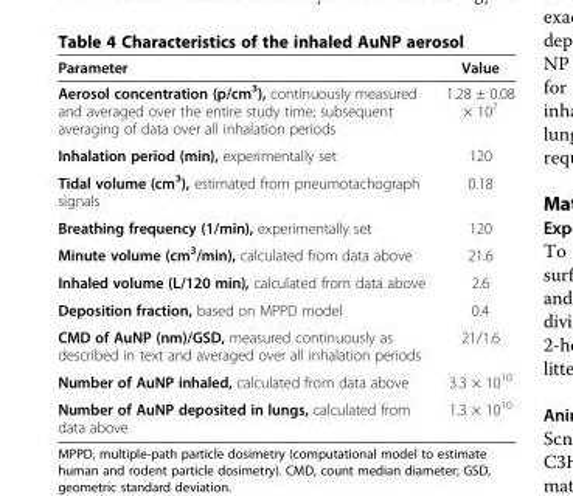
<table><thead><tr><td>Parameter</td><td>Value</td></tr></thead><tbody><tr><td>Aerosol concentration (p/cm<sup>3</sup>), continuously measured and averaged over the entire study time; subsequent averaging of data over all inhalation periods</td><td>1.28 ± 0.08 × 10<sup>7</sup></td></tr><tr><td>Inhalation period (min), experimentally set</td><td>120</td></tr><tr><td>Tidal volume (cm<sup>3</sup>), estimated from pneumotachograph signals</td><td>0.18</td></tr><tr><td>Breathing frequency (1/min), experimentally set</td><td>120</td></tr><tr><td>Minute volume (cm<sup>3</sup>/min), calculated from data above</td><td>21.6</td></tr><tr><td>Inhaled volume (L/120 min), calculated from data above</td><td>2.6</td></tr><tr><td>Deposition fraction, based on MPPD model</td><td>0.4</td></tr><tr><td>CMD of AuNP (nm)/GSD, measured continuously as described in text and averaged over all inhalation periods</td><td>21/1.6</td></tr><tr><td>Number of AuNP inhaled, calculated from data above</td><td>3.3 × 10<sup>10</sup></td></tr><tr><td>Number of AuNP deposited in lungs, calculated from data above</td><td>1.3 × 10<sup>10</sup></td></tr></tbody></table>